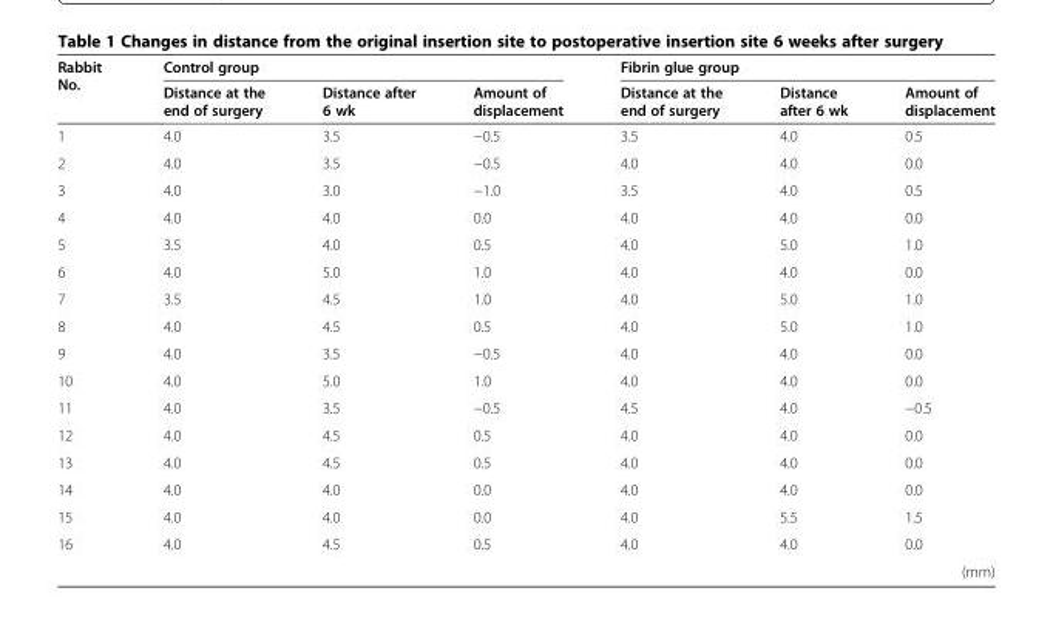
<table><thead><tr><td rowspan="2">Rabbit No.</td><td colspan="3">Control group</td><td colspan="3">Fibrin glue group</td></tr><tr><td>Distance at the end of surgery</td><td>Distance after 6 wk</td><td>Amount of displacement</td><td>Distance at the end of surgery</td><td>Distance after 6 wk</td><td>Amount of displacement</td></tr></thead><tbody><tr><td>1</td><td>4.0</td><td>3.5</td><td>−0.5</td><td>3.5</td><td>4.0</td><td>0.5</td></tr><tr><td>2</td><td>4.0</td><td>3.5</td><td>−0.5</td><td>4.0</td><td>4.0</td><td>0.0</td></tr><tr><td>3</td><td>4.0</td><td>3.0</td><td>−1.0</td><td>3.5</td><td>4.0</td><td>0.5</td></tr><tr><td>4</td><td>4.0</td><td>4.0</td><td>0.0</td><td>4.0</td><td>4.0</td><td>0.0</td></tr><tr><td>5</td><td>3.5</td><td>4.0</td><td>0.5</td><td>4.0</td><td>5.0</td><td>1.0</td></tr><tr><td>6</td><td>4.0</td><td>5.0</td><td>1.0</td><td>4.0</td><td>4.0</td><td>0.0</td></tr><tr><td>7</td><td>3.5</td><td>4.5</td><td>1.0</td><td>4.0</td><td>5.0</td><td>1.0</td></tr><tr><td>8</td><td>4.0</td><td>4.5</td><td>0.5</td><td>4.0</td><td>5.0</td><td>1.0</td></tr><tr><td>9</td><td>4.0</td><td>3.5</td><td>−0.5</td><td>4.0</td><td>4.0</td><td>0.0</td></tr><tr><td>10</td><td>4.0</td><td>5.0</td><td>1.0</td><td>4.0</td><td>4.0</td><td>0.0</td></tr><tr><td>11</td><td>4.0</td><td>3.5</td><td>−0.5</td><td>4.5</td><td>4.0</td><td>−0.5</td></tr><tr><td>12</td><td>4.0</td><td>4.5</td><td>0.5</td><td>4.0</td><td>4.0</td><td>0.0</td></tr><tr><td>13</td><td>4.0</td><td>4.5</td><td>0.5</td><td>4.0</td><td>4.0</td><td>0.0</td></tr><tr><td>14</td><td>4.0</td><td>4.0</td><td>0.0</td><td>4.0</td><td>4.0</td><td>0.0</td></tr><tr><td>15</td><td>4.0</td><td>4.0</td><td>0.0</td><td>4.0</td><td>5.5</td><td>1.5</td></tr><tr><td rowspan="2">16</td><td>4.0</td><td>4.5</td><td>0.5</td><td>4.0</td><td>4.0</td><td>0.0</td></tr><tr><td></td><td></td><td></td><td></td><td></td><td>(mm)</td></tr></tbody></table>